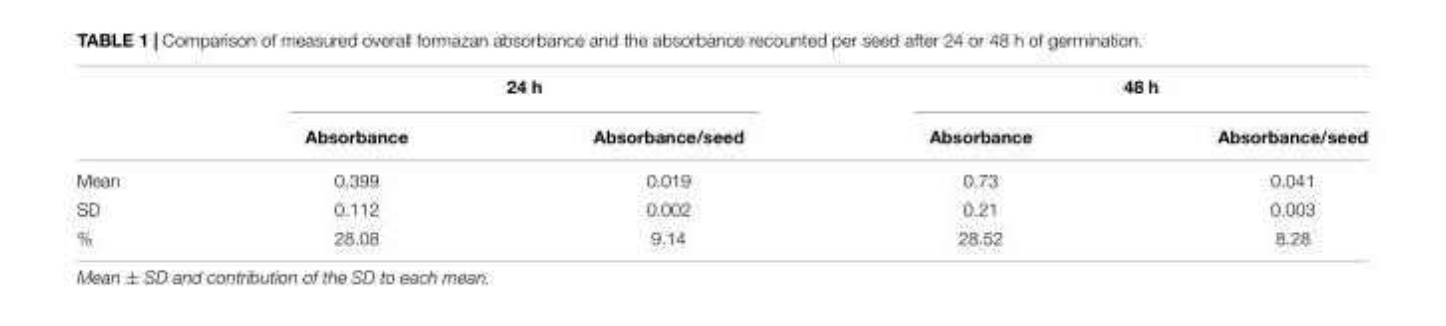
<table><thead><tr><td rowspan="2"></td><td colspan="2">24 h</td><td colspan="2">48 h</td></tr><tr><td>Absorbance</td><td>Absorbance/seed</td><td>Absorbance</td><td>Absorbance/seed</td></tr></thead><tbody><tr><td>Mean</td><td>0.399</td><td>0.019</td><td>0.73</td><td>0.041</td></tr><tr><td>SD</td><td>0.112</td><td>0.002</td><td>0.21</td><td>0.003</td></tr><tr><td>%</td><td>28.08</td><td>9.14</td><td>28.52</td><td>8.28</td></tr></tbody></table>